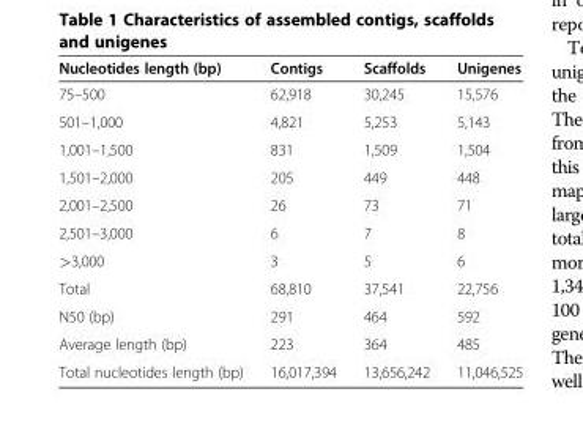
<table><thead><tr><td>Nucleotides length (bp)</td><td>Contigs</td><td>Scaffolds</td><td>Unigenes</td></tr></thead><tbody><tr><td>75–500</td><td>62,918</td><td>30,245</td><td>15,576</td></tr><tr><td>501–1,000</td><td>4,821</td><td>5,253</td><td>5,143</td></tr><tr><td>1,001–1,500</td><td>831</td><td>1,509</td><td>1,504</td></tr><tr><td>1,501–2,000</td><td>205</td><td>449</td><td>448</td></tr><tr><td>2,001–2,500</td><td>26</td><td>73</td><td>71</td></tr><tr><td>2,501–3,000</td><td>6</td><td>7</td><td>8</td></tr><tr><td>&gt;3,000</td><td>3</td><td>5</td><td>6</td></tr><tr><td>Total</td><td>68,810</td><td>37,541</td><td>22,756</td></tr><tr><td>N50 (bp)</td><td>291</td><td>464</td><td>592</td></tr><tr><td>Average length (bp)</td><td>223</td><td>364</td><td>485</td></tr><tr><td>Total nucleotides length (bp)</td><td>16,017,394</td><td>13,656,242</td><td>11,046,525</td></tr></tbody></table>